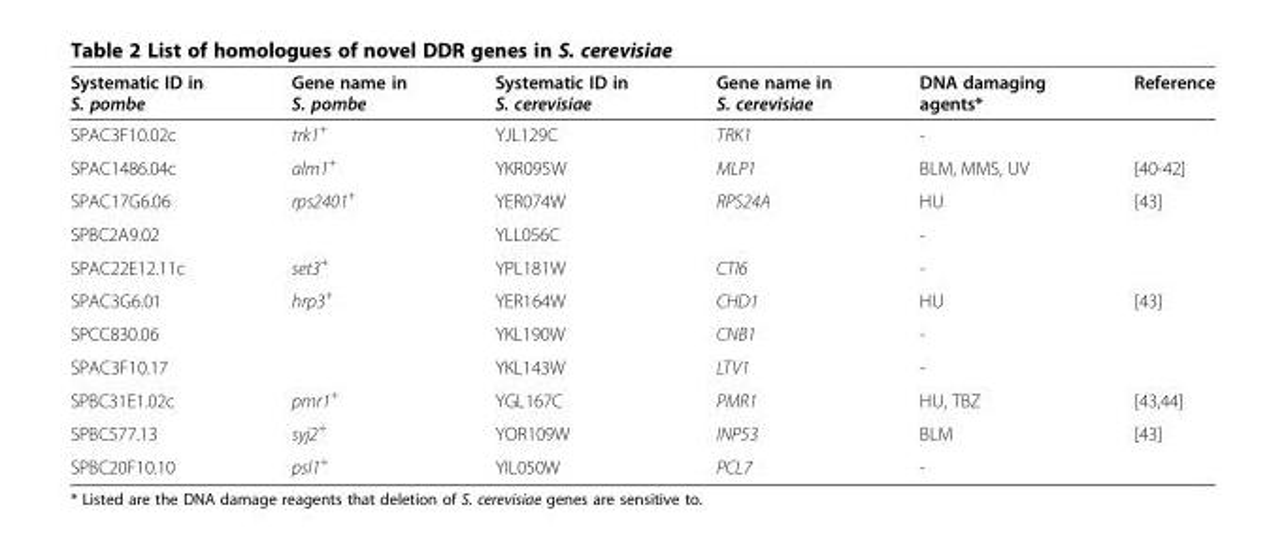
<table><thead><tr><td>Systematic ID in S. pombe</td><td>Gene name in S. pombe</td><td>Systematic ID in S. cerevisiae</td><td>Gene name in S. cerevisiae</td><td>DNA damaging agents*</td><td>Reference</td></tr></thead><tbody><tr><td>SPAC3F10.02c</td><td>trk1<sup>+</sup></td><td>YJL129C</td><td>TRK1</td><td>-</td><td></td></tr><tr><td>SPAC1486.04c</td><td>alm1<sup>+</sup></td><td>YKR095W</td><td>MLP1</td><td>BLM, MMS, UV</td><td>[40-42]</td></tr><tr><td>SPAC17G6.06</td><td>rps2401<sup>+</sup></td><td>YER074W</td><td>RPS24A</td><td>HU</td><td>[43]</td></tr><tr><td>SPBC2A9.02</td><td></td><td>YLL056C</td><td></td><td>-</td><td></td></tr><tr><td>SPAC22E12.11c</td><td>set3<sup>+</sup></td><td>YPL181W</td><td>CTI6</td><td>-</td><td></td></tr><tr><td>SPAC3G6.01</td><td>hrp3<sup>+</sup></td><td>YER164W</td><td>CHD1</td><td>HU</td><td>[43]</td></tr><tr><td>SPCC830.06</td><td></td><td>YKL190W</td><td>CNB1</td><td>-</td><td></td></tr><tr><td>SPAC3F10.17</td><td></td><td>YKL143W</td><td>LTV1</td><td>-</td><td></td></tr><tr><td>SPBC31E1.02c</td><td>pmr1<sup>+</sup></td><td>YGL167C</td><td>PMR1</td><td>HU, TBZ</td><td>[43,44]</td></tr><tr><td>SPBC577.13</td><td>syj2<sup>+</sup></td><td>YOR109W</td><td>INP53</td><td>BLM</td><td>[43]</td></tr><tr><td>SPBC20F10.10</td><td>psl1<sup>+</sup></td><td>YIL050W</td><td>PCL7</td><td>-</td><td></td></tr></tbody></table>